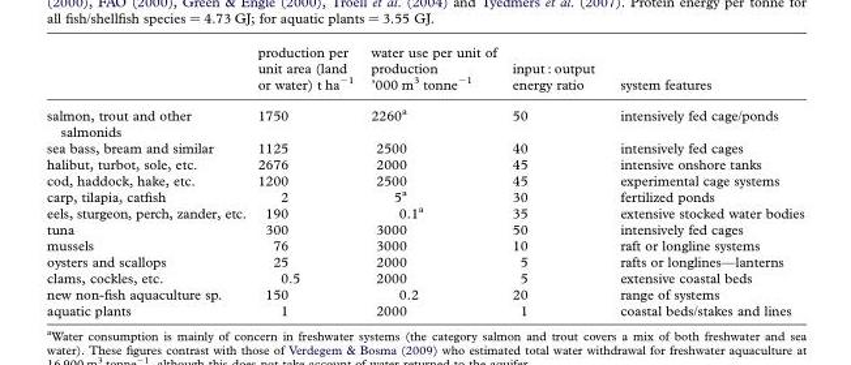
<table><thead><tr><td></td><td>production per unit area (land or water) t ha<sup>−1</sup></td><td>water use per unit of production ’000 m<sup>3</sup> tonne<sup>−1</sup></td><td>input : output energy ratio</td><td>system features</td></tr></thead><tbody><tr><td>salmon, trout and other salmonids</td><td>1750</td><td>2260<sup>a</sup></td><td>50</td><td>intensively fed cage/ponds</td></tr><tr><td>sea bass, bream and similar</td><td>1125</td><td>2500</td><td>40</td><td>intensively fed cages</td></tr><tr><td>halibut, turbot, sole, etc.</td><td>2676</td><td>2000</td><td>45</td><td>intensive onshore tanks</td></tr><tr><td>cod, haddock, hake, etc.</td><td>1200</td><td>2500</td><td>45</td><td>experimental cage systems</td></tr><tr><td>carp, tilapia, catfish</td><td>2</td><td>5<sup>a</sup></td><td>30</td><td>fertilized ponds</td></tr><tr><td>eels, sturgeon, perch, zander, etc.</td><td>190</td><td>0.1<sup>a</sup></td><td>35</td><td>extensive stocked water bodies</td></tr><tr><td>tuna</td><td>300</td><td>3000</td><td>50</td><td>intensively fed cages</td></tr><tr><td>mussels</td><td>76</td><td>3000</td><td>10</td><td>raft or longline systems</td></tr><tr><td>oysters and scallops</td><td>25</td><td>2000</td><td>5</td><td>rafts or longlines—lanterns</td></tr><tr><td>clams, cockles, etc.</td><td>0.5</td><td>2000</td><td>5</td><td>extensive coastal beds</td></tr><tr><td>new non-fish aquaculture sp.</td><td>150</td><td>0.2</td><td>20</td><td>range of systems</td></tr><tr><td>aquatic plants</td><td>1</td><td>2000</td><td>1</td><td>coastal beds/stakes and lines</td></tr></tbody></table>